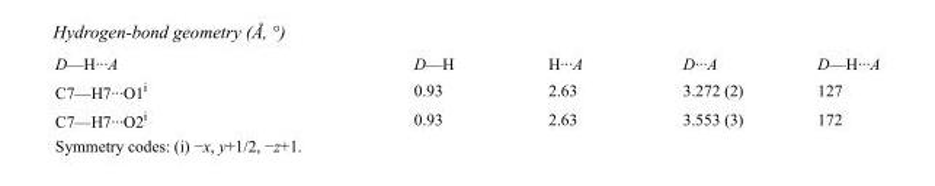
<table><tbody><tr><td>D—H···A</td><td>D—H</td><td>H···A</td><td>D···A</td><td>D—H···A</td></tr><tr><td>C7—H7···O1<sup>i</sup></td><td>0.93</td><td>2.63</td><td>3.272 (2)</td><td>127</td></tr><tr><td>C7—H7···O2<sup>i</sup></td><td>0.93</td><td>2.63</td><td>3.553 (3)</td><td>172</td></tr></tbody></table>